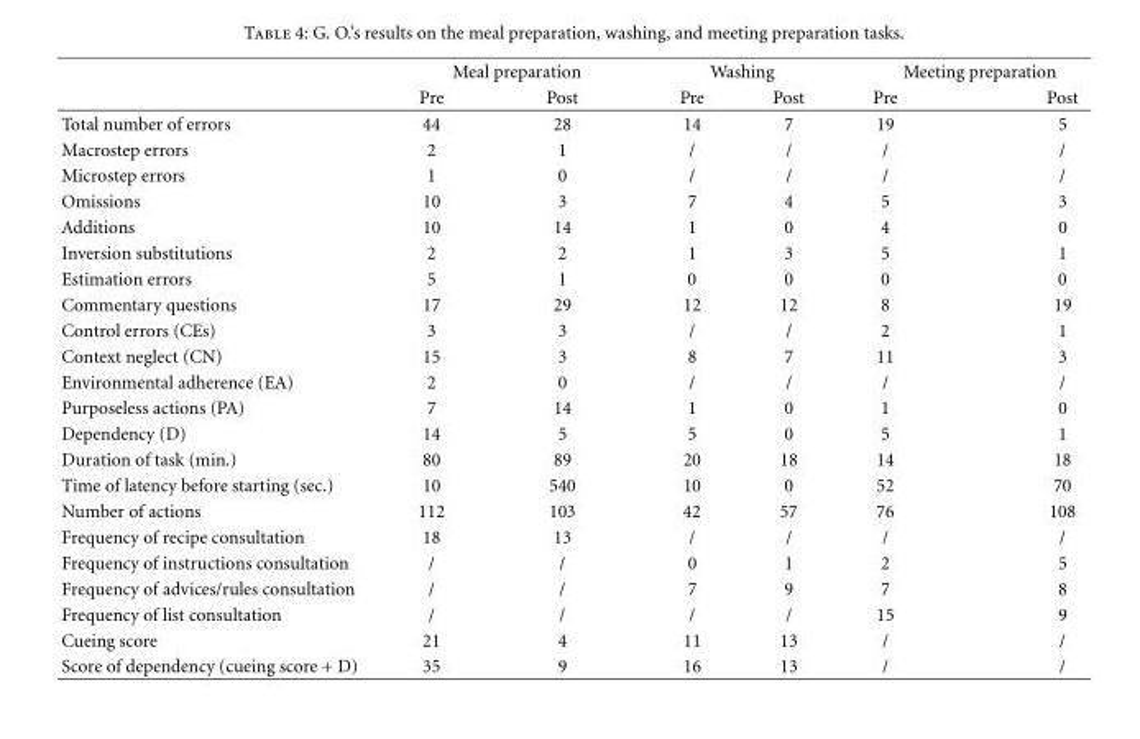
<table><thead><tr><td rowspan="2"></td><td colspan="2">Meal preparation</td><td colspan="2">Washing</td><td colspan="2">Meeting preparation</td></tr><tr><td>Pre</td><td>Post</td><td>Pre</td><td>Post</td><td>Pre</td><td>Post</td></tr></thead><tbody><tr><td>Total number of errors</td><td>44</td><td>28</td><td>14</td><td>7</td><td>19</td><td>5</td></tr><tr><td>Macrostep errors</td><td>2</td><td>1</td><td>/</td><td>/</td><td>/</td><td>/</td></tr><tr><td>Microstep errors</td><td>1</td><td>0</td><td>/</td><td>/</td><td>/</td><td>/</td></tr><tr><td>Omissions</td><td>10</td><td>3</td><td>7</td><td>4</td><td>5</td><td>3</td></tr><tr><td>Additions</td><td>10</td><td>14</td><td>1</td><td>0</td><td>4</td><td>0</td></tr><tr><td>Inversion substitutions</td><td>2</td><td>2</td><td>1</td><td>3</td><td>5</td><td>1</td></tr><tr><td>Estimation errors</td><td>5</td><td>1</td><td>0</td><td>0</td><td>0</td><td>0</td></tr><tr><td>Commentary questions</td><td>17</td><td>29</td><td>12</td><td>12</td><td>8</td><td>19</td></tr><tr><td>Control errors (CEs)</td><td>3</td><td>3</td><td>/</td><td>/</td><td>2</td><td>1</td></tr><tr><td>Context neglect (CN)</td><td>15</td><td>3</td><td>8</td><td>7</td><td>11</td><td>3</td></tr><tr><td>Environmental adherence (EA)</td><td>2</td><td>0</td><td>/</td><td>/</td><td>/</td><td>/</td></tr><tr><td>Purposeless actions (PA)</td><td>7</td><td>14</td><td>1</td><td>0</td><td>1</td><td>0</td></tr><tr><td>Dependency (D)</td><td>14</td><td>5</td><td>5</td><td>0</td><td>5</td><td>1</td></tr><tr><td>Duration of task (min.)</td><td>80</td><td>89</td><td>20</td><td>18</td><td>14</td><td>18</td></tr><tr><td>Time of latency before starting (sec.)</td><td>10</td><td>540</td><td>10</td><td>0</td><td>52</td><td>70</td></tr><tr><td>Number of actions</td><td>112</td><td>103</td><td>42</td><td>57</td><td>76</td><td>108</td></tr><tr><td>Frequency of recipe consultation</td><td>18</td><td>13</td><td>/</td><td>/</td><td>/</td><td>/</td></tr><tr><td>Frequency of instructions consultation</td><td>/</td><td>/</td><td>0</td><td>1</td><td>2</td><td>5</td></tr><tr><td>Frequency of advices/rules consultation</td><td>/</td><td>/</td><td>7</td><td>9</td><td>7</td><td>8</td></tr><tr><td>Frequency of list consultation</td><td>/</td><td>/</td><td>/</td><td>/</td><td>15</td><td>9</td></tr><tr><td>Cueing score</td><td>21</td><td>4</td><td>11</td><td>13</td><td>/</td><td>/</td></tr><tr><td>Score of dependency (cueing score + D)</td><td>35</td><td>9</td><td>16</td><td>13</td><td>/</td><td>/</td></tr></tbody></table>